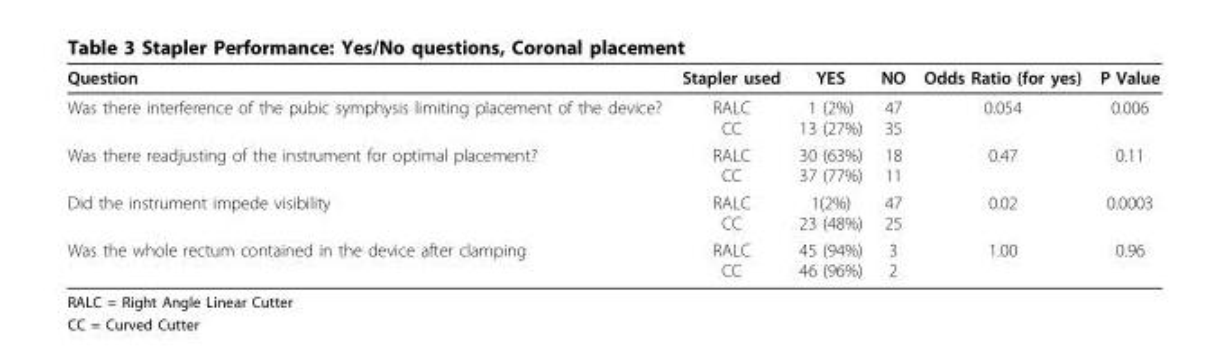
<table><thead><tr><td>Question</td><td>Stapler used</td><td>YES</td><td>NO</td><td>Odds Ratio (for yes)</td><td>P Value</td></tr></thead><tbody><tr><td>Was there interference of the pubic symphysis limiting placement of the device?</td><td>RALC CC</td><td>1 (2%) 13 (27%)</td><td>47 35</td><td>0.054</td><td>0.006</td></tr><tr><td>Was there readjusting of the instrument for optimal placement?</td><td>RALC CC</td><td>30 (63%) 37 (77%)</td><td>18 11</td><td>0.47</td><td>0.11</td></tr><tr><td>Did the instrument impede visibility</td><td>RALC CC</td><td>1(2%) 23 (48%)</td><td>47 25</td><td>0.02</td><td>0.0003</td></tr><tr><td>Was the whole rectum contained in the device after clamping</td><td>RALC CC</td><td>45 (94%) 46 (96%)</td><td>3 2</td><td>1.00</td><td>0.96</td></tr></tbody></table>